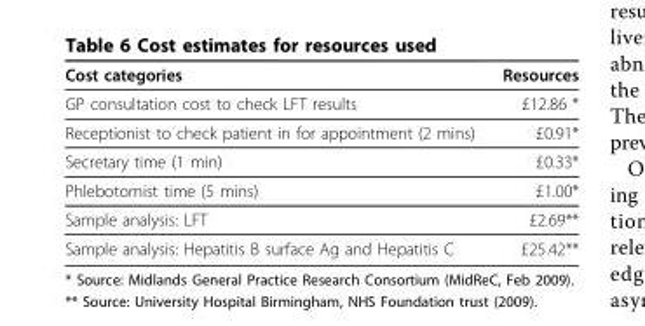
<table><thead><tr><td>Cost categories</td><td>Resources</td></tr></thead><tbody><tr><td>GP consultation cost to check LFT results</td><td>£12.86 *</td></tr><tr><td>Receptionist to check patient in for appointment (2 mins)</td><td>£0.91*</td></tr><tr><td>Secretary time (1 min)</td><td>£0.33*</td></tr><tr><td>Phlebotomist time (5 mins)</td><td>£1.00*</td></tr><tr><td>Sample analysis: LFT</td><td>£2.69**</td></tr><tr><td>Sample analysis: Hepatitis B surface Ag and Hepatitis C</td><td>£25.42**</td></tr></tbody></table>